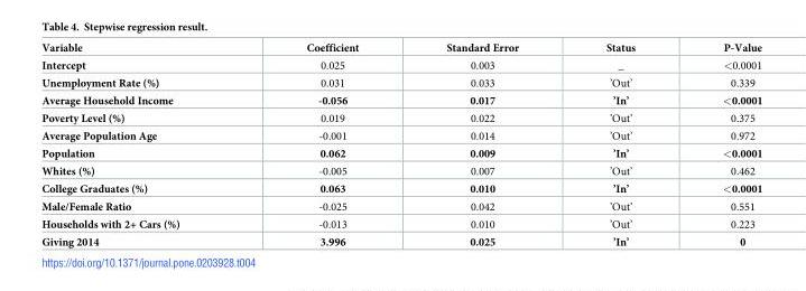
<table><thead><tr><td>Variable</td><td>Coefficient</td><td>Standard Error</td><td>Status</td><td>P-Value</td></tr></thead><tbody><tr><td>Intercept</td><td>0.025</td><td>0.003</td><td>_</td><td>&lt;0.0001</td></tr><tr><td>Unemployment Rate (%)</td><td>0.031</td><td>0.033</td><td>’Out’</td><td>0.339</td></tr><tr><td>Average Household Income</td><td>-0.056</td><td>0.017</td><td>’In’</td><td>&lt;0.0001</td></tr><tr><td>Poverty Level (%)</td><td>0.019</td><td>0.022</td><td>’Out’</td><td>0.375</td></tr><tr><td>Average Population Age</td><td>-0.001</td><td>0.014</td><td>’Out’</td><td>0.972</td></tr><tr><td>Population</td><td>0.062</td><td>0.009</td><td>’In’</td><td>&lt;0.0001</td></tr><tr><td>Whites (%)</td><td>-0.005</td><td>0.007</td><td>’Out’</td><td>0.462</td></tr><tr><td>College Graduates (%)</td><td>0.063</td><td>0.010</td><td>’In’</td><td>&lt;0.0001</td></tr><tr><td>Male/Female Ratio</td><td>-0.025</td><td>0.042</td><td>’Out’</td><td>0.551</td></tr><tr><td>Households with 2+ Cars (%)</td><td>-0.013</td><td>0.010</td><td>’Out’</td><td>0.223</td></tr><tr><td>Giving 2014</td><td>3.996</td><td>0.025</td><td>’In’</td><td>0</td></tr></tbody></table>